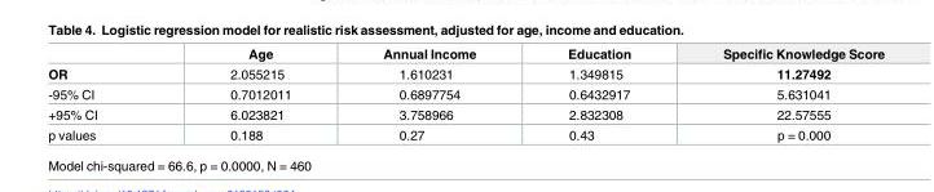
<table><thead><tr><td></td><td>Age</td><td>Annual Income</td><td>Education</td><td>Specific Knowledge Score</td></tr></thead><tbody><tr><td>OR</td><td>2.055215</td><td>1.610231</td><td>1.349815</td><td>11.27492</td></tr><tr><td>-95% CI</td><td>0.7012011</td><td>0.6897754</td><td>0.6432917</td><td>5.631041</td></tr><tr><td>+95% CI</td><td>6.023821</td><td>3.758966</td><td>2.832308</td><td>22.57555</td></tr><tr><td>p values</td><td>0.188</td><td>0.27</td><td>0.43</td><td>p = 0.000</td></tr></tbody></table>